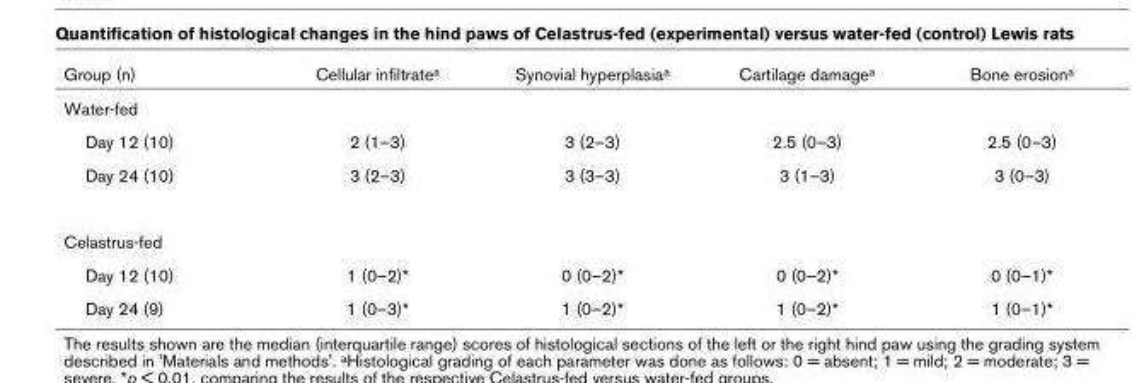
<table><thead><tr><td>Group (n)</td><td>Cellular infiltrate<sup>a</sup></td><td>Synovial hyperplasia<sup>a</sup></td><td>Cartilage damage<sup>a</sup></td><td>Bone erosion<sup>a</sup></td></tr></thead><tbody><tr><td colspan="5">Water-fed</td></tr><tr><td>Day 12 (10)</td><td>2 (1–3)</td><td>3 (2–3)</td><td>2.5 (0–3)</td><td>2.5 (0–3)</td></tr><tr><td>Day 24 (10)</td><td>3 (2–3)</td><td>3 (3–3)</td><td>3 (1–3)</td><td>3 (0–3)</td></tr><tr><td colspan="5">Celastrus-fed</td></tr><tr><td>Day 12 (10)</td><td>1 (0–2)*</td><td>0 (0–2)*</td><td>0 (0–2)*</td><td>0 (0–1)*</td></tr><tr><td>Day 24 (9)</td><td>1 (0–3)*</td><td>1 (0–2)*</td><td>1 (0–2)*</td><td>1 (0–1)*</td></tr></tbody></table>